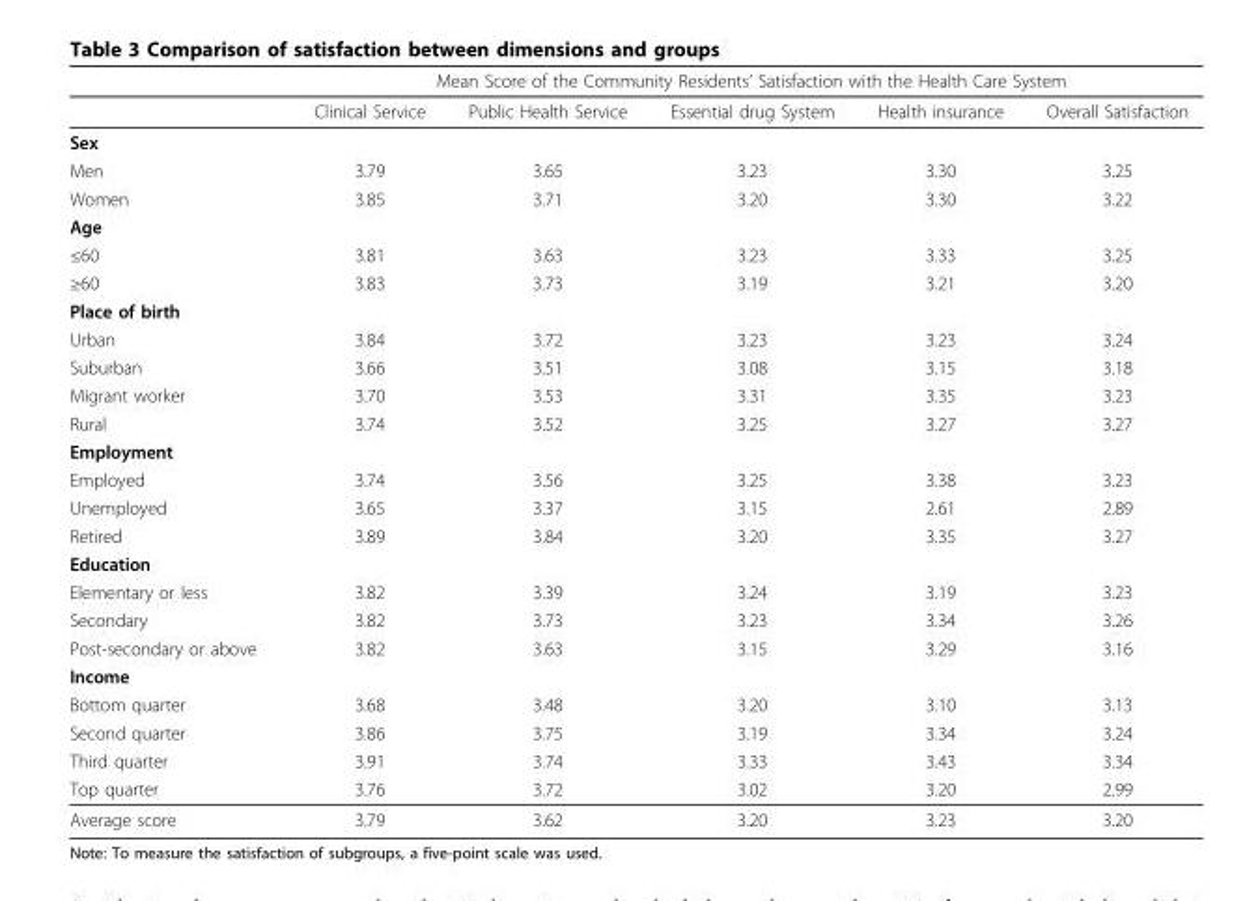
<table><thead><tr><td rowspan="2"></td><td colspan="5">Mean Score of the Community Residents’ Satisfaction with the Health Care System</td></tr><tr><td>Clinical Service</td><td>Public Health Service</td><td>Essential drug System</td><td>Health insurance</td><td>Overall Satisfaction</td></tr></thead><tbody><tr><td colspan="6">Sex</td></tr><tr><td>Men</td><td>3.79</td><td>3.65</td><td>3.23</td><td>3.30</td><td>3.25</td></tr><tr><td>Women</td><td>3.85</td><td>3.71</td><td>3.20</td><td>3.30</td><td>3.22</td></tr><tr><td colspan="6">Age</td></tr><tr><td>≤60</td><td>3.81</td><td>3.63</td><td>3.23</td><td>3.33</td><td>3.25</td></tr><tr><td>≥60</td><td>3.83</td><td>3.73</td><td>3.19</td><td>3.21</td><td>3.20</td></tr><tr><td colspan="6">Place of birth</td></tr><tr><td>Urban</td><td>3.84</td><td>3.72</td><td>3.23</td><td>3.23</td><td>3.24</td></tr><tr><td>Suburban</td><td>3.66</td><td>3.51</td><td>3.08</td><td>3.15</td><td>3.18</td></tr><tr><td>Migrant worker</td><td>3.70</td><td>3.53</td><td>3.31</td><td>3.35</td><td>3.23</td></tr><tr><td>Rural</td><td>3.74</td><td>3.52</td><td>3.25</td><td>3.27</td><td>3.27</td></tr><tr><td colspan="6">Employment</td></tr><tr><td>Employed</td><td>3.74</td><td>3.56</td><td>3.25</td><td>3.38</td><td>3.23</td></tr><tr><td>Unemployed</td><td>3.65</td><td>3.37</td><td>3.15</td><td>2.61</td><td>2.89</td></tr><tr><td>Retired</td><td>3.89</td><td>3.84</td><td>3.20</td><td>3.35</td><td>3.27</td></tr><tr><td colspan="6">Education</td></tr><tr><td>Elementary or less</td><td>3.82</td><td>3.39</td><td>3.24</td><td>3.19</td><td>3.23</td></tr><tr><td>Secondary</td><td>3.82</td><td>3.73</td><td>3.23</td><td>3.34</td><td>3.26</td></tr><tr><td>Post-secondary or above</td><td>3.82</td><td>3.63</td><td>3.15</td><td>3.29</td><td>3.16</td></tr><tr><td colspan="6">Income</td></tr><tr><td>Bottom quarter</td><td>3.68</td><td>3.48</td><td>3.20</td><td>3.10</td><td>3.13</td></tr><tr><td>Second quarter</td><td>3.86</td><td>3.75</td><td>3.19</td><td>3.34</td><td>3.24</td></tr><tr><td>Third quarter</td><td>3.91</td><td>3.74</td><td>3.33</td><td>3.43</td><td>3.34</td></tr><tr><td>Top quarter</td><td>3.76</td><td>3.72</td><td>3.02</td><td>3.20</td><td>2.99</td></tr><tr><td>Average score</td><td>3.79</td><td>3.62</td><td>3.20</td><td>3.23</td><td>3.20</td></tr></tbody></table>